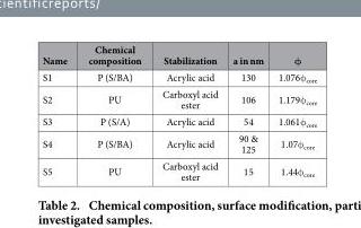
<table><thead><tr><td>Name</td><td>Chemical composition</td><td>Stabilization</td><td>a in nm</td><td>φ</td></tr></thead><tbody><tr><td>S1</td><td>P (S/BA)</td><td>Acrylic acid</td><td>130</td><td>1.076φ <sub>core</sub></td></tr><tr><td>S2</td><td>PU</td><td>Carboxyl acid ester</td><td>106</td><td>1.179φ <sub>core</sub></td></tr><tr><td>S3</td><td>P (S/A)</td><td>Acrylic acid</td><td>54</td><td>1.061φ <sub>core</sub></td></tr><tr><td>S4</td><td>P (S/BA)</td><td>Acrylic acid</td><td>90 &amp; 125</td><td>1.07φ <sub>core</sub></td></tr><tr><td>S5</td><td>PU</td><td>Carboxyl acid ester</td><td>15</td><td>1.44φ <sub>core</sub></td></tr></tbody></table>